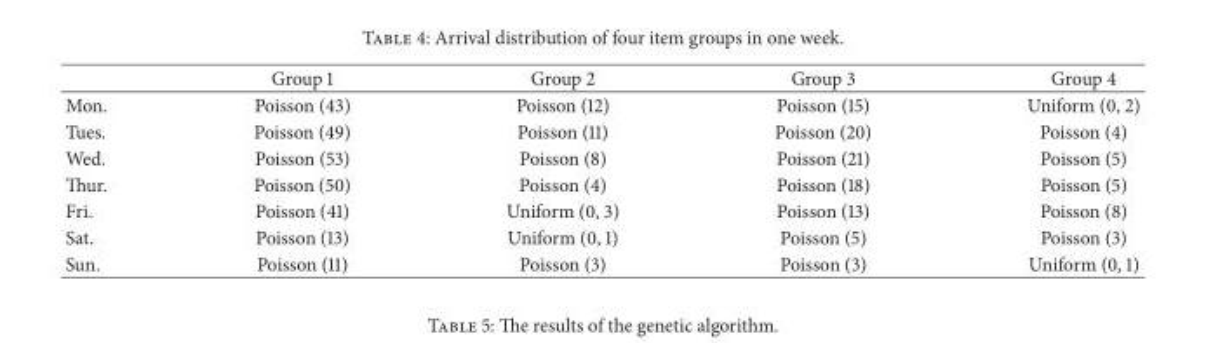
<table><thead><tr><td></td><td>Group 1</td><td>Group 2</td><td>Group 3</td><td>Group 4</td></tr></thead><tbody><tr><td>Mon.</td><td>Poisson (43)</td><td>Poisson (12)</td><td>Poisson (15)</td><td>Uniform (0, 2)</td></tr><tr><td>Tues.</td><td>Poisson (49)</td><td>Poisson (11)</td><td>Poisson (20)</td><td>Poisson (4)</td></tr><tr><td>Wed.</td><td>Poisson (53)</td><td>Poisson (8)</td><td>Poisson (21)</td><td>Poisson (5)</td></tr><tr><td>Thur.</td><td>Poisson (50)</td><td>Poisson (4)</td><td>Poisson (18)</td><td>Poisson (5)</td></tr><tr><td>Fri.</td><td>Poisson (41)</td><td>Uniform (0, 3)</td><td>Poisson (13)</td><td>Poisson (8)</td></tr><tr><td>Sat.</td><td>Poisson (13)</td><td>Uniform (0, 1)</td><td>Poisson (5)</td><td>Poisson (3)</td></tr><tr><td>Sun.</td><td>Poisson (11)</td><td>Poisson (3)</td><td>Poisson (3)</td><td>Uniform (0, 1)</td></tr></tbody></table>